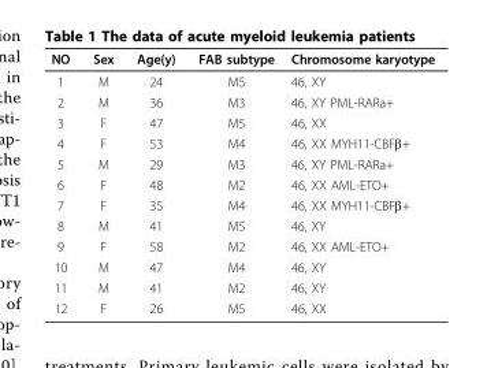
<table><thead><tr><td>NO</td><td>Sex</td><td>Age(y)</td><td>FAB subtype</td><td>Chromosome karyotype</td></tr></thead><tbody><tr><td>1</td><td>M</td><td>24</td><td>M5</td><td>46, XY</td></tr><tr><td>2</td><td>M</td><td>36</td><td>M3</td><td>46, XY PML-RARa+</td></tr><tr><td>3</td><td>F</td><td>47</td><td>M5</td><td>46, XX</td></tr><tr><td>4</td><td>F</td><td>53</td><td>M4</td><td>46, XX MYH11-CBFβ+</td></tr><tr><td>5</td><td>M</td><td>29</td><td>M3</td><td>46, XY PML-RARa+</td></tr><tr><td>6</td><td>F</td><td>48</td><td>M2</td><td>46, XX AML-ETO+</td></tr><tr><td>7</td><td>F</td><td>35</td><td>M4</td><td>46, XX MYH11-CBFβ+</td></tr><tr><td>8</td><td>M</td><td>41</td><td>M5</td><td>46, XY</td></tr><tr><td>9</td><td>F</td><td>58</td><td>M2</td><td>46, XX AML-ETO+</td></tr><tr><td>10</td><td>M</td><td>47</td><td>M4</td><td>46, XY</td></tr><tr><td>11</td><td>M</td><td>41</td><td>M2</td><td>46, XY</td></tr><tr><td>12</td><td>F</td><td>26</td><td>M5</td><td>46, XX</td></tr></tbody></table>